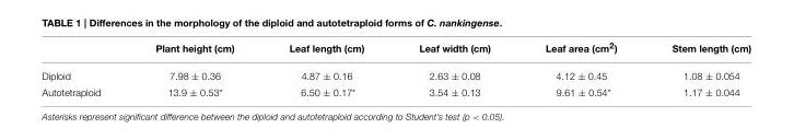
<table><thead><tr><td></td><td>Plant height (cm)</td><td>Leaf length (cm)</td><td>Leaf width (cm)</td><td>Leaf area (cm<sup>2</sup>)</td><td>Stem length (cm)</td></tr></thead><tbody><tr><td>Diploid</td><td>7.98 ± 0.36</td><td>4.87 ± 0.16</td><td>2.63 ± 0.08</td><td>4.12 ± 0.45</td><td>1.08 ± 0.054</td></tr><tr><td>Autotetraploid</td><td>13.9 ± 0.53*</td><td>6.50 ± 0.17*</td><td>3.54 ± 0.13</td><td>9.61 ± 0.54*</td><td>1.17 ± 0.044</td></tr></tbody></table>